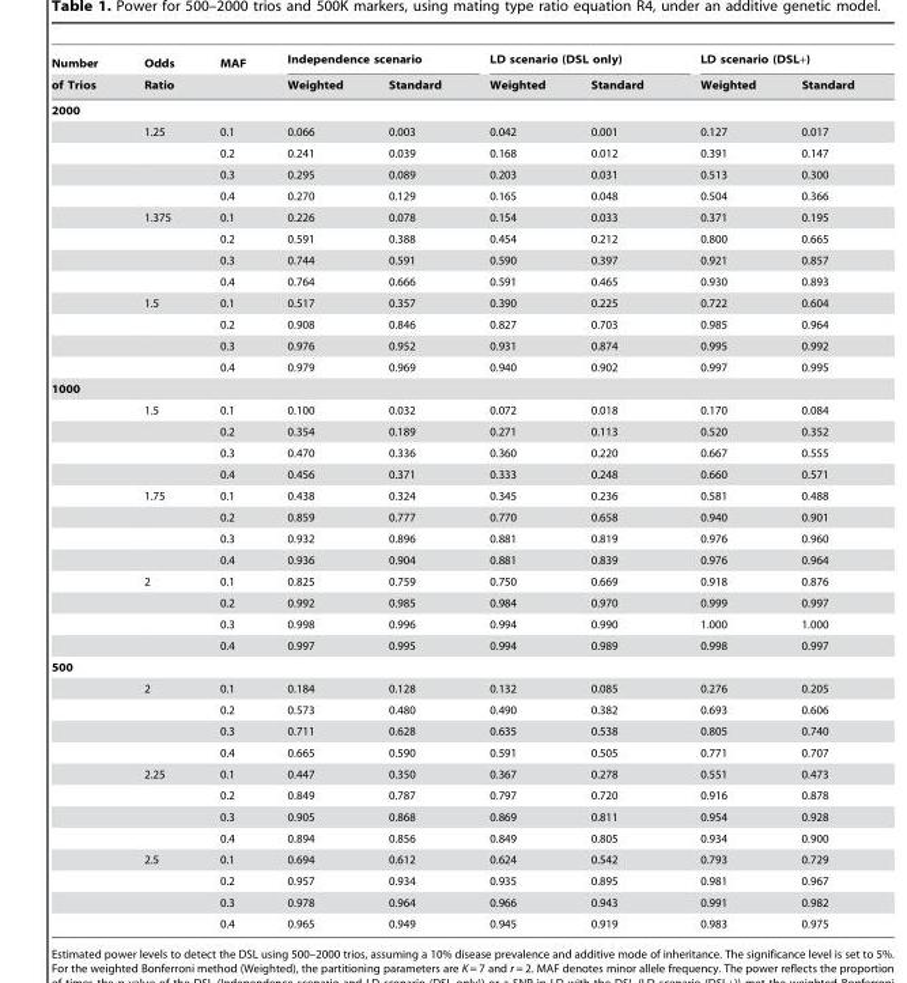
<table><thead><tr><td rowspan="2">Number of Trios</td><td rowspan="2">Odds Ratio</td><td rowspan="2">MAF</td><td colspan="2">Independence scenario</td><td colspan="2">LD scenario (DSL only)</td><td colspan="2">LD scenario (DSL+)</td></tr><tr><td>Weighted</td><td>Standard</td><td>Weighted</td><td>Standard</td><td>Weighted</td><td>Standard</td></tr></thead><tbody><tr><td colspan="9">2000</td></tr><tr><td></td><td>1.25</td><td>0.1</td><td>0.066</td><td>0.003</td><td>0.042</td><td>0.001</td><td>0.127</td><td>0.017</td></tr><tr><td></td><td></td><td>0.2</td><td>0.241</td><td>0.039</td><td>0.168</td><td>0.012</td><td>0.391</td><td>0.147</td></tr><tr><td></td><td></td><td>0.3</td><td>0.295</td><td>0.089</td><td>0.203</td><td>0.031</td><td>0.513</td><td>0.300</td></tr><tr><td></td><td></td><td>0.4</td><td>0.270</td><td>0.129</td><td>0.165</td><td>0.048</td><td>0.504</td><td>0.366</td></tr><tr><td></td><td>1.375</td><td>0.1</td><td>0.226</td><td>0.078</td><td>0.154</td><td>0.033</td><td>0.371</td><td>0.195</td></tr><tr><td></td><td></td><td>0.2</td><td>0.591</td><td>0.388</td><td>0.454</td><td>0.212</td><td>0.800</td><td>0.665</td></tr><tr><td></td><td></td><td>0.3</td><td>0.744</td><td>0.591</td><td>0.590</td><td>0.397</td><td>0.921</td><td>0.857</td></tr><tr><td></td><td></td><td>0.4</td><td>0.764</td><td>0.666</td><td>0.591</td><td>0.465</td><td>0.930</td><td>0.893</td></tr><tr><td></td><td>1.5</td><td>0.1</td><td>0.517</td><td>0.357</td><td>0.390</td><td>0.225</td><td>0.722</td><td>0.604</td></tr><tr><td></td><td></td><td>0.2</td><td>0.908</td><td>0.846</td><td>0.827</td><td>0.703</td><td>0.985</td><td>0.964</td></tr><tr><td></td><td></td><td>0.3</td><td>0.976</td><td>0.952</td><td>0.931</td><td>0.874</td><td>0.995</td><td>0.992</td></tr><tr><td></td><td></td><td>0.4</td><td>0.979</td><td>0.969</td><td>0.940</td><td>0.902</td><td>0.997</td><td>0.995</td></tr><tr><td colspan="9">1000</td></tr><tr><td></td><td>1.5</td><td>0.1</td><td>0.100</td><td>0.032</td><td>0.072</td><td>0.018</td><td>0.170</td><td>0.084</td></tr><tr><td></td><td></td><td>0.2</td><td>0.354</td><td>0.189</td><td>0.271</td><td>0.113</td><td>0.520</td><td>0.352</td></tr><tr><td></td><td></td><td>0.3</td><td>0.470</td><td>0.336</td><td>0.360</td><td>0.220</td><td>0.667</td><td>0.555</td></tr><tr><td></td><td></td><td>0.4</td><td>0.456</td><td>0.371</td><td>0.333</td><td>0.248</td><td>0.660</td><td>0.571</td></tr><tr><td></td><td>1.75</td><td>0.1</td><td>0.438</td><td>0.324</td><td>0.345</td><td>0.236</td><td>0.581</td><td>0.488</td></tr><tr><td></td><td></td><td>0.2</td><td>0.859</td><td>0.777</td><td>0.770</td><td>0.658</td><td>0.940</td><td>0.901</td></tr><tr><td></td><td></td><td>0.3</td><td>0.932</td><td>0.896</td><td>0.881</td><td>0.819</td><td>0.976</td><td>0.960</td></tr><tr><td></td><td></td><td>0.4</td><td>0.936</td><td>0.904</td><td>0.881</td><td>0.839</td><td>0.976</td><td>0.964</td></tr><tr><td></td><td>2</td><td>0.1</td><td>0.825</td><td>0.759</td><td>0.750</td><td>0.669</td><td>0.918</td><td>0.876</td></tr><tr><td></td><td></td><td>0.2</td><td>0.992</td><td>0.985</td><td>0.984</td><td>0.970</td><td>0.999</td><td>0.997</td></tr><tr><td></td><td></td><td>0.3</td><td>0.998</td><td>0.996</td><td>0.994</td><td>0.990</td><td>1.000</td><td>1.000</td></tr><tr><td></td><td></td><td>0.4</td><td>0.997</td><td>0.995</td><td>0.994</td><td>0.989</td><td>0.998</td><td>0.997</td></tr><tr><td colspan="9">500</td></tr><tr><td></td><td>2</td><td>0.1</td><td>0.184</td><td>0.128</td><td>0.132</td><td>0.085</td><td>0.276</td><td>0.205</td></tr><tr><td></td><td></td><td>0.2</td><td>0.573</td><td>0.480</td><td>0.490</td><td>0.382</td><td>0.693</td><td>0.606</td></tr><tr><td></td><td></td><td>0.3</td><td>0.711</td><td>0.628</td><td>0.635</td><td>0.538</td><td>0.805</td><td>0.740</td></tr><tr><td></td><td></td><td>0.4</td><td>0.665</td><td>0.590</td><td>0.591</td><td>0.505</td><td>0.771</td><td>0.707</td></tr><tr><td></td><td>2.25</td><td>0.1</td><td>0.447</td><td>0.350</td><td>0.367</td><td>0.278</td><td>0.551</td><td>0.473</td></tr><tr><td></td><td></td><td>0.2</td><td>0.849</td><td>0.787</td><td>0.797</td><td>0.720</td><td>0.916</td><td>0.878</td></tr><tr><td></td><td></td><td>0.3</td><td>0.905</td><td>0.868</td><td>0.869</td><td>0.811</td><td>0.954</td><td>0.928</td></tr><tr><td></td><td></td><td>0.4</td><td>0.894</td><td>0.856</td><td>0.849</td><td>0.805</td><td>0.934</td><td>0.900</td></tr><tr><td></td><td>2.5</td><td>0.1</td><td>0.694</td><td>0.612</td><td>0.624</td><td>0.542</td><td>0.793</td><td>0.729</td></tr><tr><td></td><td></td><td>0.2</td><td>0.957</td><td>0.934</td><td>0.935</td><td>0.895</td><td>0.981</td><td>0.967</td></tr><tr><td></td><td></td><td>0.3</td><td>0.978</td><td>0.964</td><td>0.966</td><td>0.943</td><td>0.991</td><td>0.982</td></tr><tr><td></td><td></td><td>0.4</td><td>0.965</td><td>0.949</td><td>0.945</td><td>0.919</td><td>0.983</td><td>0.975</td></tr></tbody></table>